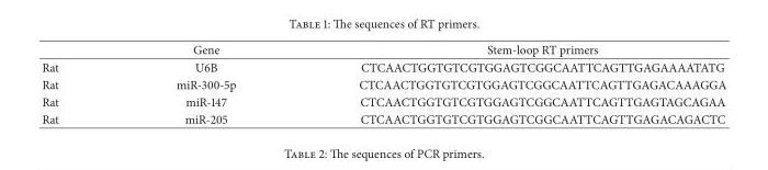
<table><thead><tr><td></td><td>Gene</td><td>Stem-loop RT primers</td></tr></thead><tbody><tr><td>Rat</td><td>U6B</td><td>CTCAACTGGTGTCGTGGAGTCGGCAATTCAGTTGAGAAAATATG</td></tr><tr><td>Rat</td><td>miR-300-5p</td><td>CTCAACTGGTGTCGTGGAGTCGGCAATTCAGTTGAGACAAAGGA</td></tr><tr><td>Rat</td><td>miR-147</td><td>CTCAACTGGTGTCGTGGAGTCGGCAATTCAGTTGAGTAGCAGAA</td></tr><tr><td>Rat</td><td>miR-205</td><td>CTCAACTGGTGTCGTGGAGTCGGCAATTCAGTTGAGACAGACTC</td></tr></tbody></table>